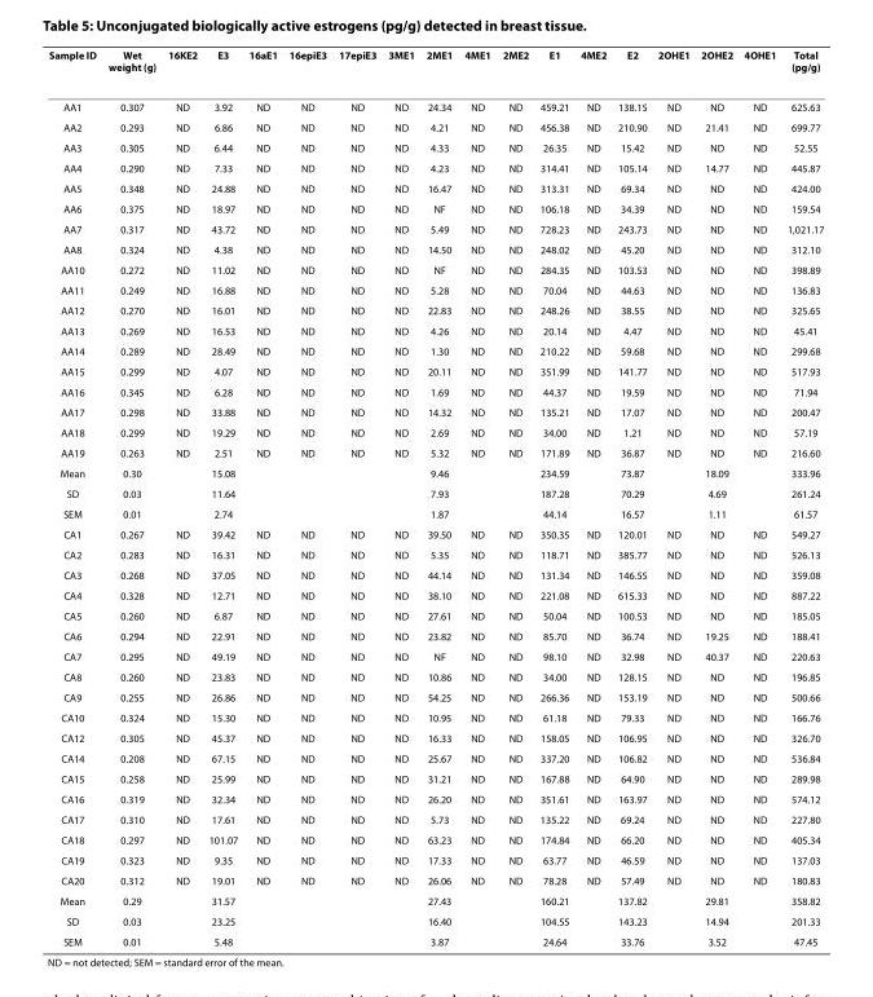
<table><thead><tr><td>Sample ID</td><td>Wet weight (g)</td><td>16KE2</td><td>E3</td><td>16aE1</td><td>16epiE3</td><td>17epiE3</td><td>3ME1</td><td>2ME1</td><td>4ME1</td><td>2ME2</td><td>E1</td><td>4ME2</td><td>E2</td><td>2OHE1</td><td>2OHE2</td><td>4OHE1</td><td>Total (pg/g)</td></tr></thead><tbody><tr><td>AA1</td><td>0.307</td><td>ND</td><td>3.92</td><td>ND</td><td>ND</td><td>ND</td><td>ND</td><td>24.34</td><td>ND</td><td>ND</td><td>459.21</td><td>ND</td><td>138.15</td><td>ND</td><td>ND</td><td>ND</td><td>625.63</td></tr><tr><td>AA2</td><td>0.293</td><td>ND</td><td>6.86</td><td>ND</td><td>ND</td><td>ND</td><td>ND</td><td>4.21</td><td>ND</td><td>ND</td><td>456.38</td><td>ND</td><td>210.90</td><td>ND</td><td>21.41</td><td>ND</td><td>699.77</td></tr><tr><td>AA3</td><td>0.305</td><td>ND</td><td>6.44</td><td>ND</td><td>ND</td><td>ND</td><td>ND</td><td>4.33</td><td>ND</td><td>ND</td><td>26.35</td><td>ND</td><td>15.42</td><td>ND</td><td>ND</td><td>ND</td><td>52.55</td></tr><tr><td>AA4</td><td>0.290</td><td>ND</td><td>7.33</td><td>ND</td><td>ND</td><td>ND</td><td>ND</td><td>4.23</td><td>ND</td><td>ND</td><td>314.41</td><td>ND</td><td>105.14</td><td>ND</td><td>14.77</td><td>ND</td><td>445.87</td></tr><tr><td>AA5</td><td>0.348</td><td>ND</td><td>24.88</td><td>ND</td><td>ND</td><td>ND</td><td>ND</td><td>16.47</td><td>ND</td><td>ND</td><td>313.31</td><td>ND</td><td>69.34</td><td>ND</td><td>ND</td><td>ND</td><td>424.00</td></tr><tr><td>AA6</td><td>0.375</td><td>ND</td><td>18.97</td><td>ND</td><td>ND</td><td>ND</td><td>ND</td><td>NF</td><td>ND</td><td>ND</td><td>106.18</td><td>ND</td><td>34.39</td><td>ND</td><td>ND</td><td>ND</td><td>159.54</td></tr><tr><td>AA7</td><td>0.317</td><td>ND</td><td>43.72</td><td>ND</td><td>ND</td><td>ND</td><td>ND</td><td>5.49</td><td>ND</td><td>ND</td><td>728.23</td><td>ND</td><td>243.73</td><td>ND</td><td>ND</td><td>ND</td><td>1,021.17</td></tr><tr><td>AA8</td><td>0.324</td><td>ND</td><td>4.38</td><td>ND</td><td>ND</td><td>ND</td><td>ND</td><td>14.50</td><td>ND</td><td>ND</td><td>248.02</td><td>ND</td><td>45.20</td><td>ND</td><td>ND</td><td>ND</td><td>312.10</td></tr><tr><td>AA10</td><td>0.272</td><td>ND</td><td>11.02</td><td>ND</td><td>ND</td><td>ND</td><td>ND</td><td>NF</td><td>ND</td><td>ND</td><td>284.35</td><td>ND</td><td>103.53</td><td>ND</td><td>ND</td><td>ND</td><td>398.89</td></tr><tr><td>AA11</td><td>0.249</td><td>ND</td><td>16.88</td><td>ND</td><td>ND</td><td>ND</td><td>ND</td><td>5.28</td><td>ND</td><td>ND</td><td>70.04</td><td>ND</td><td>44.63</td><td>ND</td><td>ND</td><td>ND</td><td>136.83</td></tr><tr><td>AA12</td><td>0.270</td><td>ND</td><td>16.01</td><td>ND</td><td>ND</td><td>ND</td><td>ND</td><td>22.83</td><td>ND</td><td>ND</td><td>248.26</td><td>ND</td><td>38.55</td><td>ND</td><td>ND</td><td>ND</td><td>325.65</td></tr><tr><td>AA13</td><td>0.269</td><td>ND</td><td>16.53</td><td>ND</td><td>ND</td><td>ND</td><td>ND</td><td>4.26</td><td>ND</td><td>ND</td><td>20.14</td><td>ND</td><td>4.47</td><td>ND</td><td>ND</td><td>ND</td><td>45.41</td></tr><tr><td>AA14</td><td>0.289</td><td>ND</td><td>28.49</td><td>ND</td><td>ND</td><td>ND</td><td>ND</td><td>1.30</td><td>ND</td><td>ND</td><td>210.22</td><td>ND</td><td>59.68</td><td>ND</td><td>ND</td><td>ND</td><td>299.68</td></tr><tr><td>AA15</td><td>0.299</td><td>ND</td><td>4.07</td><td>ND</td><td>ND</td><td>ND</td><td>ND</td><td>20.11</td><td>ND</td><td>ND</td><td>351.99</td><td>ND</td><td>141.77</td><td>ND</td><td>ND</td><td>ND</td><td>517.93</td></tr><tr><td>AA16</td><td>0.345</td><td>ND</td><td>6.28</td><td>ND</td><td>ND</td><td>ND</td><td>ND</td><td>1.69</td><td>ND</td><td>ND</td><td>44.37</td><td>ND</td><td>19.59</td><td>ND</td><td>ND</td><td>ND</td><td>71.94</td></tr><tr><td>AA17</td><td>0.298</td><td>ND</td><td>33.88</td><td>ND</td><td>ND</td><td>ND</td><td>ND</td><td>14.32</td><td>ND</td><td>ND</td><td>135.21</td><td>ND</td><td>17.07</td><td>ND</td><td>ND</td><td>ND</td><td>200.47</td></tr><tr><td>AA18</td><td>0.299</td><td>ND</td><td>19.29</td><td>ND</td><td>ND</td><td>ND</td><td>ND</td><td>2.69</td><td>ND</td><td>ND</td><td>34.00</td><td>ND</td><td>1.21</td><td>ND</td><td>ND</td><td>ND</td><td>57.19</td></tr><tr><td>AA19</td><td>0.263</td><td>ND</td><td>2.51</td><td>ND</td><td>ND</td><td>ND</td><td>ND</td><td>5.32</td><td>ND</td><td>ND</td><td>171.89</td><td>ND</td><td>36.87</td><td>ND</td><td>ND</td><td>ND</td><td>216.60</td></tr><tr><td>Mean</td><td>0.30</td><td></td><td>15.08</td><td></td><td></td><td></td><td></td><td>9.46</td><td></td><td></td><td>234.59</td><td></td><td>73.87</td><td></td><td>18.09</td><td></td><td>333.96</td></tr><tr><td>SD</td><td>0.03</td><td></td><td>11.64</td><td></td><td></td><td></td><td></td><td>7.93</td><td></td><td></td><td>187.28</td><td></td><td>70.29</td><td></td><td>4.69</td><td></td><td>261.24</td></tr><tr><td>SEM</td><td>0.01</td><td></td><td>2.74</td><td></td><td></td><td></td><td></td><td>1.87</td><td></td><td></td><td>44.14</td><td></td><td>16.57</td><td></td><td>1.11</td><td></td><td>61.57</td></tr><tr><td>CA1</td><td>0.267</td><td>ND</td><td>39.42</td><td>ND</td><td>ND</td><td>ND</td><td>ND</td><td>39.50</td><td>ND</td><td>ND</td><td>350.35</td><td>ND</td><td>120.01</td><td>ND</td><td>ND</td><td>ND</td><td>549.27</td></tr><tr><td>CA2</td><td>0.283</td><td>ND</td><td>16.31</td><td>ND</td><td>ND</td><td>ND</td><td>ND</td><td>5.35</td><td>ND</td><td>ND</td><td>118.71</td><td>ND</td><td>385.77</td><td>ND</td><td>ND</td><td>ND</td><td>526.13</td></tr><tr><td>CA3</td><td>0.268</td><td>ND</td><td>37.05</td><td>ND</td><td>ND</td><td>ND</td><td>ND</td><td>44.14</td><td>ND</td><td>ND</td><td>131.34</td><td>ND</td><td>146.55</td><td>ND</td><td>ND</td><td>ND</td><td>359.08</td></tr><tr><td>CA4</td><td>0.328</td><td>ND</td><td>12.71</td><td>ND</td><td>ND</td><td>ND</td><td>ND</td><td>38.10</td><td>ND</td><td>ND</td><td>221.08</td><td>ND</td><td>615.33</td><td>ND</td><td>ND</td><td>ND</td><td>887.22</td></tr><tr><td>CA5</td><td>0.260</td><td>ND</td><td>6.87</td><td>ND</td><td>ND</td><td>ND</td><td>ND</td><td>27.61</td><td>ND</td><td>ND</td><td>50.04</td><td>ND</td><td>100.53</td><td>ND</td><td>ND</td><td>ND</td><td>185.05</td></tr><tr><td>CA6</td><td>0.294</td><td>ND</td><td>22.91</td><td>ND</td><td>ND</td><td>ND</td><td>ND</td><td>23.82</td><td>ND</td><td>ND</td><td>85.70</td><td>ND</td><td>36.74</td><td>ND</td><td>19.25</td><td>ND</td><td>188.41</td></tr><tr><td>CA7</td><td>0.295</td><td>ND</td><td>49.19</td><td>ND</td><td>ND</td><td>ND</td><td>ND</td><td>NF</td><td>ND</td><td>ND</td><td>98.10</td><td>ND</td><td>32.98</td><td>ND</td><td>40.37</td><td>ND</td><td>220.63</td></tr><tr><td>CA8</td><td>0.260</td><td>ND</td><td>23.83</td><td>ND</td><td>ND</td><td>ND</td><td>ND</td><td>10.86</td><td>ND</td><td>ND</td><td>34.00</td><td>ND</td><td>128.15</td><td>ND</td><td>ND</td><td>ND</td><td>196.85</td></tr><tr><td>CA9</td><td>0.255</td><td>ND</td><td>26.86</td><td>ND</td><td>ND</td><td>ND</td><td>ND</td><td>54.25</td><td>ND</td><td>ND</td><td>266.36</td><td>ND</td><td>153.19</td><td>ND</td><td>ND</td><td>ND</td><td>500.66</td></tr><tr><td>CA10</td><td>0.324</td><td>ND</td><td>15.30</td><td>ND</td><td>ND</td><td>ND</td><td>ND</td><td>10.95</td><td>ND</td><td>ND</td><td>61.18</td><td>ND</td><td>79.33</td><td>ND</td><td>ND</td><td>ND</td><td>166.76</td></tr><tr><td>CA12</td><td>0.305</td><td>ND</td><td>45.37</td><td>ND</td><td>ND</td><td>ND</td><td>ND</td><td>16.33</td><td>ND</td><td>ND</td><td>158.05</td><td>ND</td><td>106.95</td><td>ND</td><td>ND</td><td>ND</td><td>326.70</td></tr><tr><td>CA14</td><td>0.208</td><td>ND</td><td>67.15</td><td>ND</td><td>ND</td><td>ND</td><td>ND</td><td>25.67</td><td>ND</td><td>ND</td><td>337.20</td><td>ND</td><td>106.82</td><td>ND</td><td>ND</td><td>ND</td><td>536.84</td></tr><tr><td>CA15</td><td>0.258</td><td>ND</td><td>25.99</td><td>ND</td><td>ND</td><td>ND</td><td>ND</td><td>31.21</td><td>ND</td><td>ND</td><td>167.88</td><td>ND</td><td>64.90</td><td>ND</td><td>ND</td><td>ND</td><td>289.98</td></tr><tr><td>CA16</td><td>0.319</td><td>ND</td><td>32.34</td><td>ND</td><td>ND</td><td>ND</td><td>ND</td><td>26.20</td><td>ND</td><td>ND</td><td>351.61</td><td>ND</td><td>163.97</td><td>ND</td><td>ND</td><td>ND</td><td>574.12</td></tr><tr><td>CA17</td><td>0.310</td><td>ND</td><td>17.61</td><td>ND</td><td>ND</td><td>ND</td><td>ND</td><td>5.73</td><td>ND</td><td>ND</td><td>135.22</td><td>ND</td><td>69.24</td><td>ND</td><td>ND</td><td>ND</td><td>227.80</td></tr><tr><td>CA18</td><td>0.297</td><td>ND</td><td>101.07</td><td>ND</td><td>ND</td><td>ND</td><td>ND</td><td>63.23</td><td>ND</td><td>ND</td><td>174.84</td><td>ND</td><td>66.20</td><td>ND</td><td>ND</td><td>ND</td><td>405.34</td></tr><tr><td>CA19</td><td>0.323</td><td>ND</td><td>9.35</td><td>ND</td><td>ND</td><td>ND</td><td>ND</td><td>17.33</td><td>ND</td><td>ND</td><td>63.77</td><td>ND</td><td>46.59</td><td>ND</td><td>ND</td><td>ND</td><td>137.03</td></tr><tr><td>CA20</td><td>0.312</td><td>ND</td><td>19.01</td><td>ND</td><td>ND</td><td>ND</td><td>ND</td><td>26.06</td><td>ND</td><td>ND</td><td>78.28</td><td>ND</td><td>57.49</td><td>ND</td><td>ND</td><td>ND</td><td>180.83</td></tr><tr><td>Mean</td><td>0.29</td><td></td><td>31.57</td><td></td><td></td><td></td><td></td><td>27.43</td><td></td><td></td><td>160.21</td><td></td><td>137.82</td><td></td><td>29.81</td><td></td><td>358.82</td></tr><tr><td>SD</td><td>0.03</td><td></td><td>23.25</td><td></td><td></td><td></td><td></td><td>16.40</td><td></td><td></td><td>104.55</td><td></td><td>143.23</td><td></td><td>14.94</td><td></td><td>201.33</td></tr><tr><td>SEM</td><td>0.01</td><td></td><td>5.48</td><td></td><td></td><td></td><td></td><td>3.87</td><td></td><td></td><td>24.64</td><td></td><td>33.76</td><td></td><td>3.52</td><td></td><td>47.45</td></tr></tbody></table>